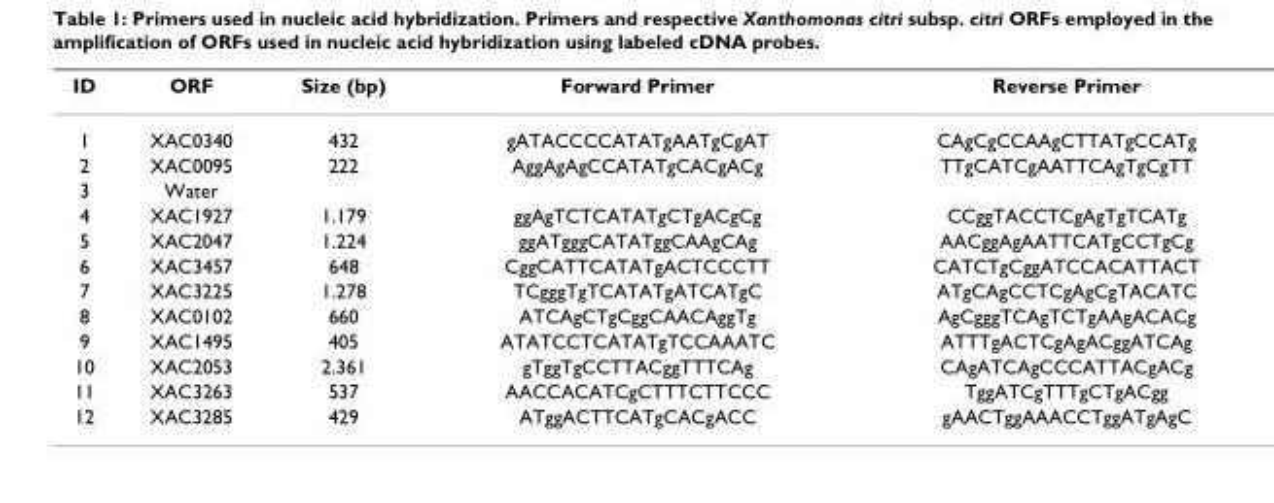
<table><thead><tr><td>ID</td><td>ORF</td><td>Size (bp)</td><td>Forward Primer</td><td>Reverse Primer</td></tr></thead><tbody><tr><td>1</td><td>XAC0340</td><td>432</td><td>gATACCCCATATgAATgCgAT</td><td>CAgCgCCAAgCTTATgCCATg</td></tr><tr><td>2</td><td>XAC0095</td><td>222</td><td>AggAgAgCCATATgCACgACg</td><td>TTgCATCgAATTCAgTgCgTT</td></tr><tr><td>3</td><td>Water</td><td></td><td></td><td></td></tr><tr><td>4</td><td>XAC1927</td><td>1.179</td><td>ggAgTCTCATATgCTgACgCg</td><td>CCggTACCTCgAgTgTCATg</td></tr><tr><td>5</td><td>XAC2047</td><td>1.224</td><td>ggATgggCATATggCAAgCAg</td><td>AACggAgAATTCATgCCTgCg</td></tr><tr><td>6</td><td>XAC3457</td><td>648</td><td>CggCATTCATATgACTCCCTT</td><td>CATCTgCggATCCACATTACT</td></tr><tr><td>7</td><td>XAC3225</td><td>1.278</td><td>TCgggTgTCATATgATCATgC</td><td>ATgCAgCCTCgAgCgTACATC</td></tr><tr><td>8</td><td>XAC0102</td><td>660</td><td>ATCAgCTgCggCAACAggTg</td><td>AgCgggTCAgTCTgAAgACACg</td></tr><tr><td>9</td><td>XAC1495</td><td>405</td><td>ATATCCTCATATgTCCAAATC</td><td>ATTTgACTCgAgACggATCAg</td></tr><tr><td>10</td><td>XAC2053</td><td>2.361</td><td>gTggTgCCTTACggTTTCAg</td><td>CAgATCAgCCCATTACgACg</td></tr><tr><td>11</td><td>XAC3263</td><td>537</td><td>AACCACATCgCTTTCTTCCC</td><td>TggATCgTTTgCTgACgg</td></tr><tr><td>12</td><td>XAC3285</td><td>429</td><td>ATggACTTCATgCACgACC</td><td>gAACTggAAACCTggATgAgC</td></tr></tbody></table>